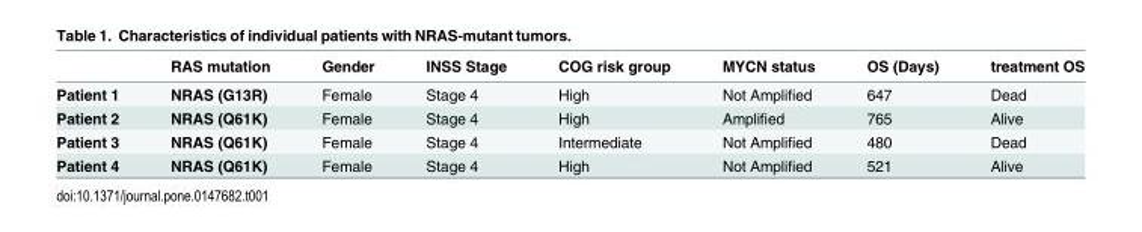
<table><thead><tr><td></td><td>RAS mutation</td><td>Gender</td><td>INSS Stage</td><td>COG risk group</td><td>MYCN status</td><td>OS (Days)</td><td>treatment OS</td></tr></thead><tbody><tr><td>Patient 1</td><td>NRAS (G13R)</td><td>Female</td><td>Stage 4</td><td>High</td><td>Not Amplified</td><td>647</td><td>Dead</td></tr><tr><td>Patient 2</td><td>NRAS (Q61K)</td><td>Female</td><td>Stage 4</td><td>High</td><td>Amplified</td><td>765</td><td>Alive</td></tr><tr><td>Patient 3</td><td>NRAS (Q61K)</td><td>Female</td><td>Stage 4</td><td>Intermediate</td><td>Not Amplified</td><td>480</td><td>Dead</td></tr><tr><td>Patient 4</td><td>NRAS (Q61K)</td><td>Female</td><td>Stage 4</td><td>High</td><td>Not Amplified</td><td>521</td><td>Alive</td></tr></tbody></table>